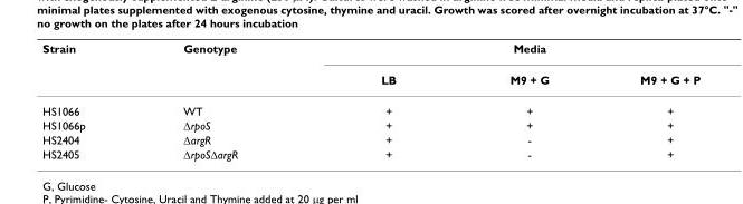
<table><thead><tr><td rowspan="2">Strain</td><td rowspan="2">Genotype</td><td colspan="3">Media</td></tr><tr><td>LB</td><td>M9 + G</td><td>M9 + G + P</td></tr></thead><tbody><tr><td>HS1066</td><td>WT</td><td>+</td><td>+</td><td>+</td></tr><tr><td>HS1066p</td><td>∆rpoS</td><td>+</td><td>+</td><td>+</td></tr><tr><td>HS2404</td><td>∆argR</td><td>+</td><td>-</td><td>+</td></tr><tr><td>HS2405</td><td>∆rpoS∆argR</td><td>+</td><td>-</td><td>+</td></tr></tbody></table>